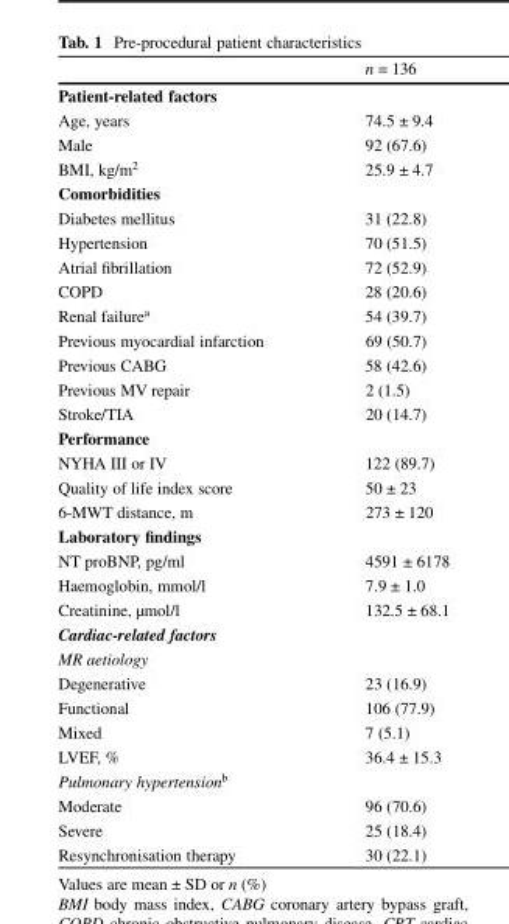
<table><thead><tr><td></td><td>n = 136</td></tr></thead><tbody><tr><td colspan="2">Patient-related factors</td></tr><tr><td>Age, years</td><td>74.5 ± 9.4</td></tr><tr><td>Male</td><td>92 (67.6)</td></tr><tr><td>BMI, kg/m<sup>2</sup></td><td>25.9 ± 4.7</td></tr><tr><td colspan="2">Comorbidities</td></tr><tr><td>Diabetes mellitus</td><td>31 (22.8)</td></tr><tr><td>Hypertension</td><td>70 (51.5)</td></tr><tr><td>Atrial fibrillation</td><td>72 (52.9)</td></tr><tr><td>COPD</td><td>28 (20.6)</td></tr><tr><td>Renal failure<sup>a</sup></td><td>54 (39.7)</td></tr><tr><td>Previous myocardial infarction</td><td>69 (50.7)</td></tr><tr><td>Previous CABG</td><td>58 (42.6)</td></tr><tr><td>Previous MV repair</td><td>2 (1.5)</td></tr><tr><td>Stroke/TIA</td><td>20 (14.7)</td></tr><tr><td colspan="2">Performance</td></tr><tr><td>NYHA III or IV</td><td>122 (89.7)</td></tr><tr><td>Quality of life index score</td><td>50 ± 23</td></tr><tr><td>6-MWT distance, m</td><td>273 ± 120</td></tr><tr><td colspan="2">Laboratory findings</td></tr><tr><td>NT proBNP, pg/ml</td><td>4591 ± 6178</td></tr><tr><td>Haemoglobin, mmol/l</td><td>7.9 ± 1.0</td></tr><tr><td>Creatinine, µmol/l</td><td>132.5 ± 68.1</td></tr><tr><td colspan="2">Cardiac-related factors</td></tr><tr><td colspan="2">MR aetiology</td></tr><tr><td>Degenerative</td><td>23 (16.9)</td></tr><tr><td>Functional</td><td>106 (77.9)</td></tr><tr><td>Mixed</td><td>7 (5.1)</td></tr><tr><td>LVEF, %</td><td>36.4 ± 15.3</td></tr><tr><td colspan="2">Pulmonary hypertension<sup>b</sup></td></tr><tr><td>Moderate</td><td>96 (70.6)</td></tr><tr><td>Severe</td><td>25 (18.4)</td></tr><tr><td>Resynchronisation therapy</td><td>30 (22.1)</td></tr></tbody></table>